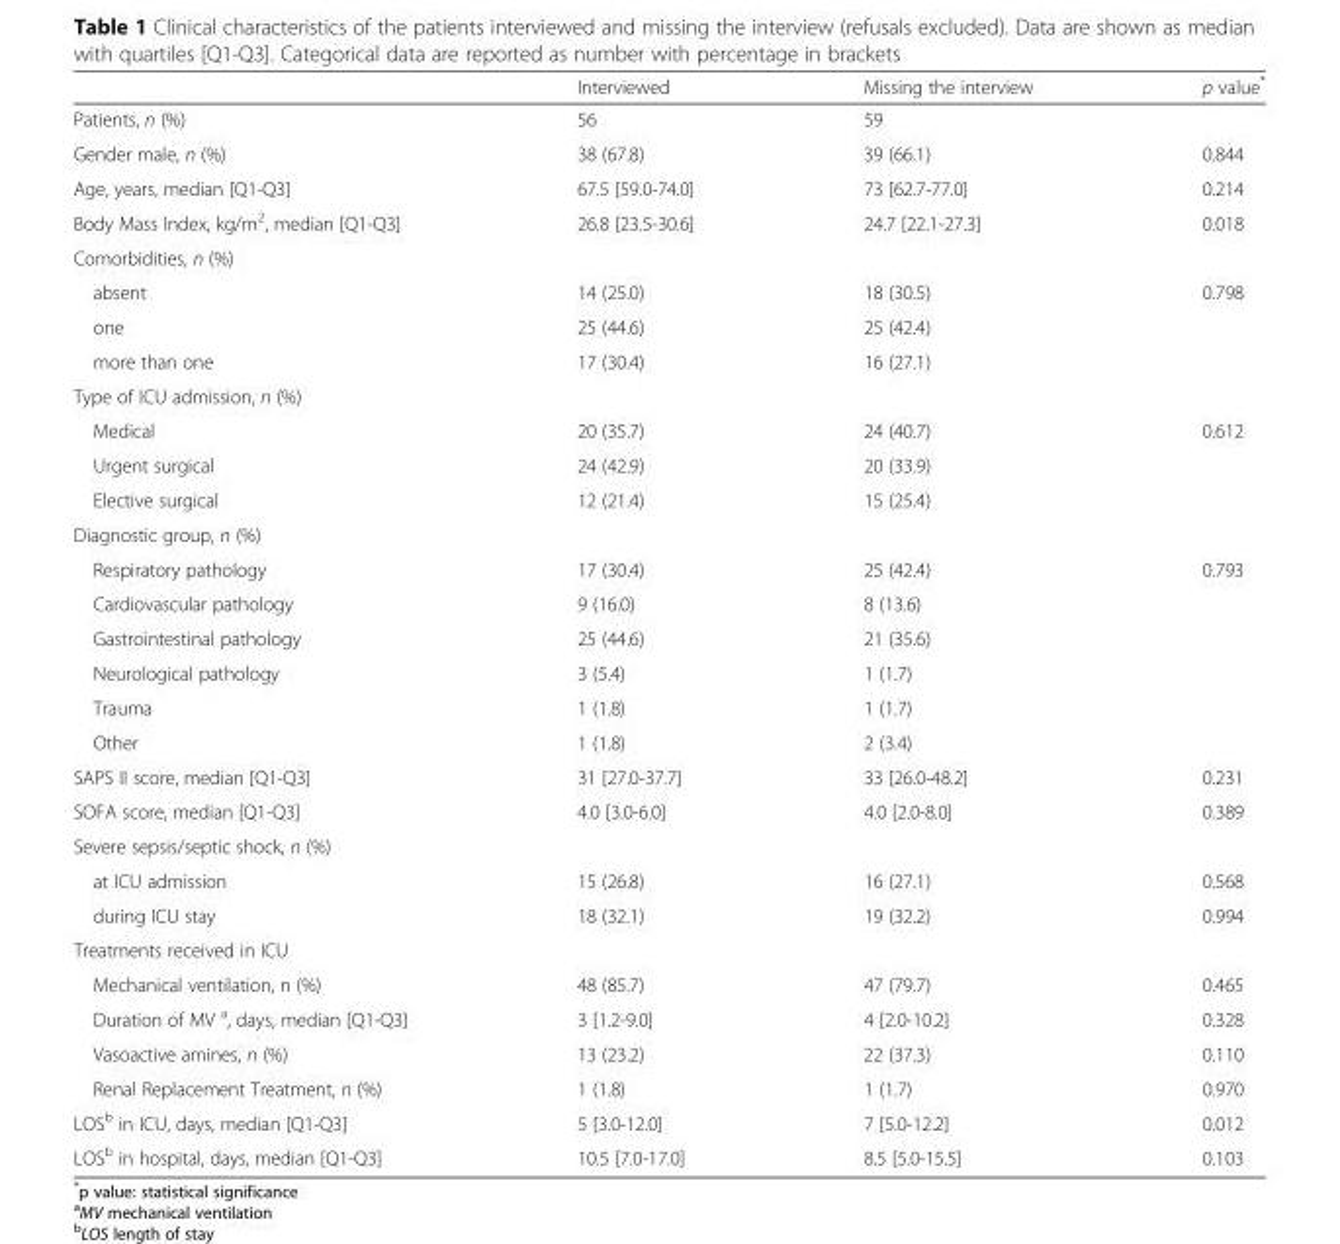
<table><thead><tr><td></td><td>Interviewed</td><td>Missing the interview</td><td>p value*</td></tr></thead><tbody><tr><td>Patients, n (%)</td><td>56</td><td>59</td><td></td></tr><tr><td>Gender male, n (%)</td><td>38 (67.8)</td><td>39 (66.1)</td><td>0.844</td></tr><tr><td>Age, years, median [Q1-Q3]</td><td>67.5 [59.0-74.0]</td><td>73 [62.7-77.0]</td><td>0.214</td></tr><tr><td>Body Mass Index, kg/m<sup>2</sup>, median [Q1-Q3]</td><td>26.8 [23.5-30.6]</td><td>24.7 [22.1-27.3]</td><td>0.018</td></tr><tr><td colspan="4">Comorbidities, n (%)</td></tr><tr><td>absent</td><td>14 (25.0)</td><td>18 (30.5)</td><td>0.798</td></tr><tr><td>one</td><td>25 (44.6)</td><td>25 (42.4)</td><td></td></tr><tr><td>more than one</td><td>17 (30.4)</td><td>16 (27.1)</td><td></td></tr><tr><td colspan="4">Type of ICU admission, n (%)</td></tr><tr><td>Medical</td><td>20 (35.7)</td><td>24 (40.7)</td><td>0.612</td></tr><tr><td>Urgent surgical</td><td>24 (42.9)</td><td>20 (33.9)</td><td></td></tr><tr><td>Elective surgical</td><td>12 (21.4)</td><td>15 (25.4)</td><td></td></tr><tr><td colspan="4">Diagnostic group, n (%)</td></tr><tr><td>Respiratory pathology</td><td>17 (30.4)</td><td>25 (42.4)</td><td>0.793</td></tr><tr><td>Cardiovascular pathology</td><td>9 (16.0)</td><td>8 (13.6)</td><td></td></tr><tr><td>Gastrointestinal pathology</td><td>25 (44.6)</td><td>21 (35.6)</td><td></td></tr><tr><td>Neurological pathology</td><td>3 (5.4)</td><td>1 (1.7)</td><td></td></tr><tr><td>Trauma</td><td>1 (1.8)</td><td>1 (1.7)</td><td></td></tr><tr><td>Other</td><td>1 (1.8)</td><td>2 (3.4)</td><td></td></tr><tr><td>SAPS II score, median [Q1-Q3]</td><td>31 [27.0-37.7]</td><td>33 [26.0-48.2]</td><td>0.231</td></tr><tr><td>SOFA score, median [Q1-Q3]</td><td>4.0 [3.0-6.0]</td><td>4.0 [2.0-8.0]</td><td>0.389</td></tr><tr><td colspan="4">Severe sepsis/septic shock, n (%)</td></tr><tr><td>at ICU admission</td><td>15 (26.8)</td><td>16 (27.1)</td><td>0.568</td></tr><tr><td>during ICU stay</td><td>18 (32.1)</td><td>19 (32.2)</td><td>0.994</td></tr><tr><td colspan="4">Treatments received in ICU</td></tr><tr><td>Mechanical ventilation, n (%)</td><td>48 (85.7)</td><td>47 (79.7)</td><td>0.465</td></tr><tr><td>Duration of MV <sup>a</sup>, days, median [Q1-Q3]</td><td>3 [1.2-9.0]</td><td>4 [2.0-10.2]</td><td>0.328</td></tr><tr><td>Vasoactive amines, n (%)</td><td>13 (23.2)</td><td>22 (37.3)</td><td>0.110</td></tr><tr><td>Renal Replacement Treatment, n (%)</td><td>1 (1.8)</td><td>1 (1.7)</td><td>0.970</td></tr><tr><td>LOS<sup>b</sup> in ICU, days, median [Q1-Q3]</td><td>5 [3.0-12.0]</td><td>7 [5.0-12.2]</td><td>0.012</td></tr><tr><td>LOS<sup>b</sup> in hospital, days, median [Q1-Q3]</td><td>10.5 [7.0-17.0]</td><td>8.5 [5.0-15.5]</td><td>0.103</td></tr></tbody></table>